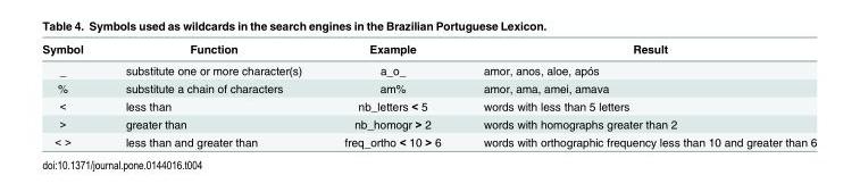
<table><thead><tr><td>Symbol</td><td>Function</td><td>Example</td><td>Result</td></tr></thead><tbody><tr><td>_</td><td>substitute one or more character(s)</td><td>a_o_</td><td>amor, anos, aloe, após</td></tr><tr><td>%</td><td>substitute a chain of characters</td><td>am%</td><td>amor, ama, amei, amava</td></tr><tr><td>&lt;</td><td>less than</td><td>nb_letters &lt; 5</td><td>words with less than 5 letters</td></tr><tr><td>&gt;</td><td>greater than</td><td>nb_homogr &gt; 2</td><td>words with homographs greater than 2</td></tr><tr><td>&lt; &gt;</td><td>less than and greater than</td><td>freq_ortho &lt; 10 &gt; 6</td><td>words with orthographic frequency less than 10 and greater than 6</td></tr></tbody></table>